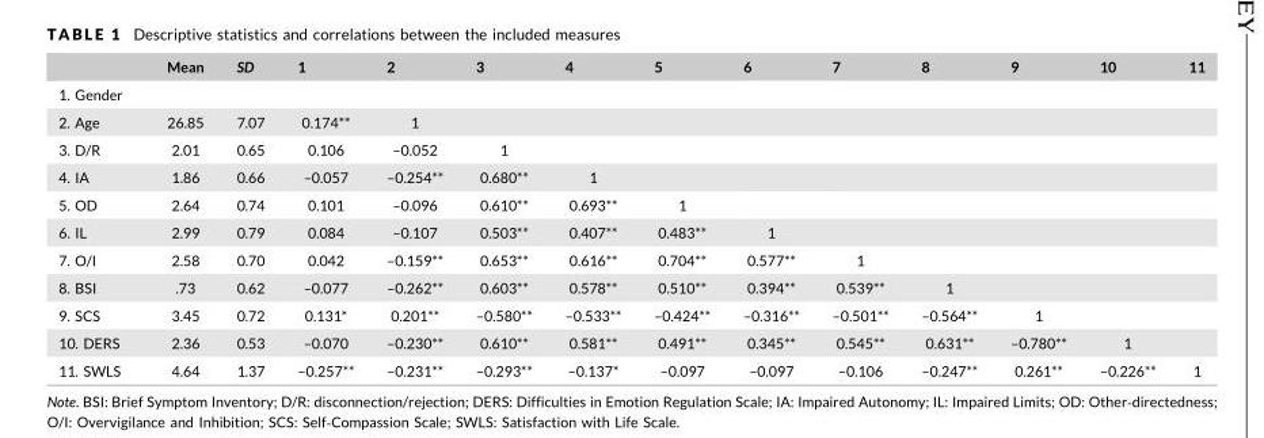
<table><thead><tr><td></td><td>Mean</td><td>SD</td><td>1</td><td>2</td><td>3</td><td>4</td><td>5</td><td>6</td><td>7</td><td>8</td><td>9</td><td>10</td><td>11</td></tr></thead><tbody><tr><td colspan="14">1. Gender</td></tr><tr><td>2. Age</td><td>26.85</td><td>7.07</td><td>0.174**</td><td>1</td><td></td><td></td><td></td><td></td><td></td><td></td><td></td><td></td><td></td></tr><tr><td>3. D/R</td><td>2.01</td><td>0.65</td><td>0.106</td><td>–0.052</td><td>1</td><td></td><td></td><td></td><td></td><td></td><td></td><td></td><td></td></tr><tr><td>4. IA</td><td>1.86</td><td>0.66</td><td>–0.057</td><td>–0.254**</td><td>0.680**</td><td>1</td><td></td><td></td><td></td><td></td><td></td><td></td><td></td></tr><tr><td>5. OD</td><td>2.64</td><td>0.74</td><td>0.101</td><td>–0.096</td><td>0.610**</td><td>0.693**</td><td>1</td><td></td><td></td><td></td><td></td><td></td><td></td></tr><tr><td>6. IL</td><td>2.99</td><td>0.79</td><td>0.084</td><td>–0.107</td><td>0.503**</td><td>0.407**</td><td>0.483**</td><td>1</td><td></td><td></td><td></td><td></td><td></td></tr><tr><td>7. O/I</td><td>2.58</td><td>0.70</td><td>0.042</td><td>–0.159**</td><td>0.653**</td><td>0.616**</td><td>0.704**</td><td>0.577**</td><td>1</td><td></td><td></td><td></td><td></td></tr><tr><td>8. BSI</td><td>.73</td><td>0.62</td><td>–0.077</td><td>–0.262**</td><td>0.603**</td><td>0.578**</td><td>0.510**</td><td>0.394**</td><td>0.539**</td><td>1</td><td></td><td></td><td></td></tr><tr><td>9. SCS</td><td>3.45</td><td>0.72</td><td>0.131*</td><td>0.201**</td><td>–0.580**</td><td>–0.533**</td><td>–0.424**</td><td>–0.316**</td><td>–0.501**</td><td>–0.564**</td><td>1</td><td></td><td></td></tr><tr><td>10. DERS</td><td>2.36</td><td>0.53</td><td>–0.070</td><td>–0.230**</td><td>0.610**</td><td>0.581**</td><td>0.491**</td><td>0.345**</td><td>0.545**</td><td>0.631**</td><td>–0.780**</td><td>1</td><td></td></tr><tr><td>11. SWLS</td><td>4.64</td><td>1.37</td><td>–0.257**</td><td>–0.231**</td><td>–0.293**</td><td>–0.137*</td><td>–0.097</td><td>–0.097</td><td>–0.106</td><td>–0.247**</td><td>0.261**</td><td>–0.226**</td><td>1</td></tr></tbody></table>